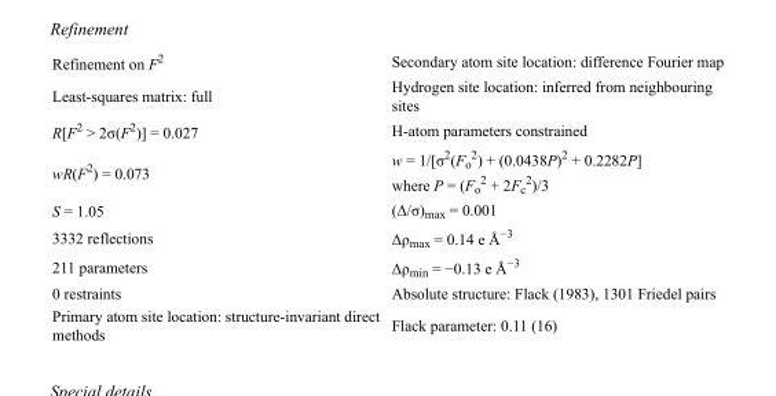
<table><tbody><tr><td>Refinement on F<sup>2</sup></td><td>Secondary atom site location: difference Fourier map</td></tr><tr><td>Least-squares matrix: full</td><td>Hydrogen site location: inferred from neighbouring sites</td></tr><tr><td>R[F<sup>2</sup> &gt; 2σ(F<sup>2</sup>)] = 0.027</td><td>H-atom parameters constrained</td></tr><tr><td>wR(F<sup>2</sup>) = 0.073</td><td>w = 1/[σ<sup>2</sup>(F<sub>o</sub> <sup>2</sup>) + (0.0438P)<sup>2</sup> + 0.2282P] where P = (F<sub>o</sub> <sup>2</sup> + 2F<sub>c</sub> <sup>2</sup>)/3</td></tr><tr><td>S = 1.05</td><td>(Δ/σ)<sub>max</sub> = 0.001</td></tr><tr><td>3332 reflections</td><td>Δρ<sub>max</sub> = 0.14 e Å<sup>−3</sup></td></tr><tr><td>211 parameters</td><td>Δρ<sub>min</sub> = −0.13 e Å<sup>−3</sup></td></tr><tr><td>0 restraints</td><td>Absolute structure: Flack (1983), 1301 Friedel pairs</td></tr><tr><td>Primary atom site location: structure-invariant direct methods</td><td>Flack parameter: 0.11 (16)</td></tr></tbody></table>